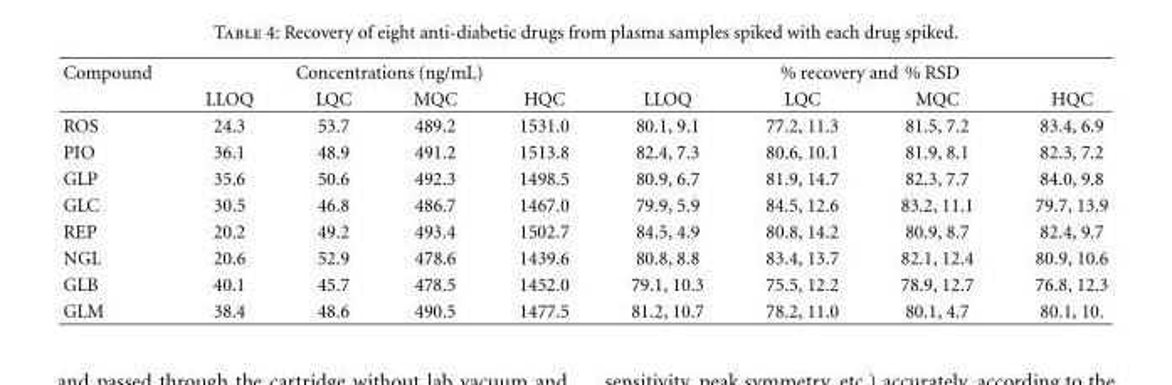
<table><thead><tr><td rowspan="2">Compound</td><td colspan="4">Concentrations (ng/mL)</td><td colspan="4">% recovery and % RSD</td></tr><tr><td>LLOQ</td><td>LQC</td><td>MQC</td><td>HQC</td><td>LLOQ</td><td>LQC</td><td>MQC</td><td>HQC</td></tr></thead><tbody><tr><td>ROS</td><td>24.3</td><td>53.7</td><td>489.2</td><td>1531.0</td><td>80.1, 9.1</td><td>77.2, 11.3</td><td>81.5, 7.2</td><td>83.4, 6.9</td></tr><tr><td>PIO</td><td>36.1</td><td>48.9</td><td>491.2</td><td>1513.8</td><td>82.4, 7.3</td><td>80.6, 10.1</td><td>81.9, 8.1</td><td>82.3, 7.2</td></tr><tr><td>GLP</td><td>35.6</td><td>50.6</td><td>492.3</td><td>1498.5</td><td>80.9, 6.7</td><td>81.9, 14.7</td><td>82.3, 7.7</td><td>84.0, 9.8</td></tr><tr><td>GLC</td><td>30.5</td><td>46.8</td><td>486.7</td><td>1467.0</td><td>79.9, 5.9</td><td>84.5, 12.6</td><td>83.2, 11.1</td><td>79.7, 13.9</td></tr><tr><td>REP</td><td>20.2</td><td>49.2</td><td>493.4</td><td>1502.7</td><td>84.5, 4.9</td><td>80.8, 14.2</td><td>80.9, 8.7</td><td>82.4, 9.7</td></tr><tr><td>NGL</td><td>20.6</td><td>52.9</td><td>478.6</td><td>1439.6</td><td>80.8, 8.8</td><td>83.4, 13.7</td><td>82.1, 12.4</td><td>80.9, 10.6</td></tr><tr><td>GLB</td><td>40.1</td><td>45.7</td><td>478.5</td><td>1452.0</td><td>79.1, 10.3</td><td>75.5, 12.2</td><td>78.9, 12.7</td><td>76.8, 12.3</td></tr><tr><td>GLM</td><td>38.4</td><td>48.6</td><td>490.5</td><td>1477.5</td><td>81.2, 10.7</td><td>78.2, 11.0</td><td>80.1, 4.7</td><td>80.1, 10.</td></tr></tbody></table>